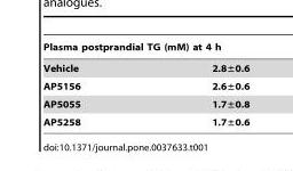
<table><thead><tr><td colspan="2">Plasma postprandial TG (mM) at 4 h</td></tr><tr><td>Vehicle</td><td>2.8±0.6</td></tr></thead><tbody><tr><td>AP5156</td><td>2.6±0.6</td></tr><tr><td>AP5055</td><td>1.7±0.8</td></tr><tr><td>AP5258</td><td>1.7±0.6</td></tr></tbody></table>